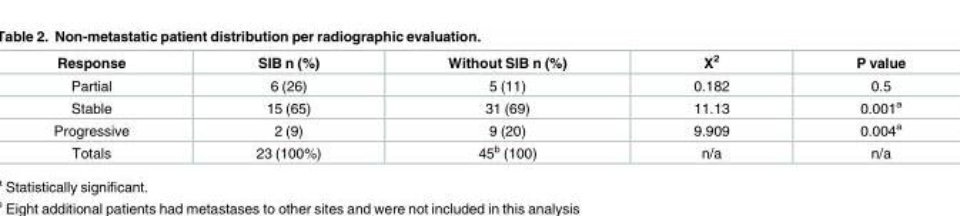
<table><thead><tr><td>Response</td><td>SIB n (%)</td><td>Without SIB n (%)</td><td>X<sup>2</sup></td><td>P value</td></tr></thead><tbody><tr><td>Partial</td><td>6 (26)</td><td>5 (11)</td><td>0.182</td><td>0.5</td></tr><tr><td>Stable</td><td>15 (65)</td><td>31 (69)</td><td>11.13</td><td>0.001<sup>a</sup></td></tr><tr><td>Progressive</td><td>2 (9)</td><td>9 (20)</td><td>9.909</td><td>0.004<sup>a</sup></td></tr><tr><td>Totals</td><td>23 (100%)</td><td>45<sup>b</sup> (100)</td><td>n/a</td><td>n/a</td></tr></tbody></table>